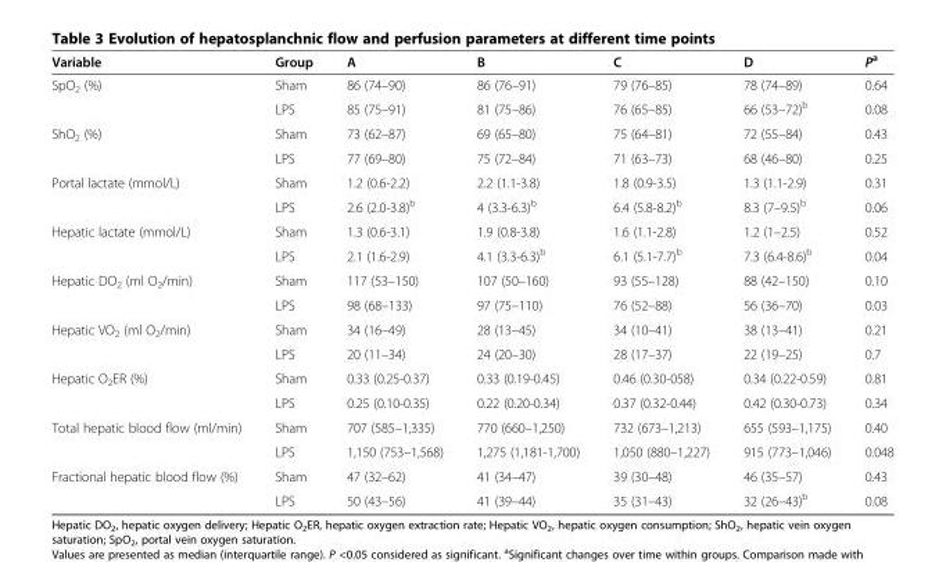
<table><thead><tr><td>Variable</td><td>Group</td><td>A</td><td>B</td><td>C</td><td>D</td><td>P<sup>a</sup></td></tr></thead><tbody><tr><td rowspan="2">SpO<sub>2</sub> (%)</td><td>Sham</td><td>86 (74–90)</td><td>86 (76–91)</td><td>79 (76–85)</td><td>78 (74–89)</td><td>0.64</td></tr><tr><td>LPS</td><td>85 (75–91)</td><td>81 (75–86)</td><td>76 (65–85)</td><td>66 (53–72)<sup>b</sup></td><td>0.08</td></tr><tr><td rowspan="2">ShO<sub>2</sub> (%)</td><td>Sham</td><td>73 (62–87)</td><td>69 (65–80)</td><td>75 (64–81)</td><td>72 (55–84)</td><td>0.43</td></tr><tr><td>LPS</td><td>77 (69–80)</td><td>75 (72–84)</td><td>71 (63–73)</td><td>68 (46–80)</td><td>0.25</td></tr><tr><td rowspan="2">Portal lactate (mmol/L)</td><td>Sham</td><td>1.2 (0.6-2.2)</td><td>2.2 (1.1-3.8)</td><td>1.8 (0.9-3.5)</td><td>1.3 (1.1-2.9)</td><td>0.31</td></tr><tr><td>LPS</td><td>2.6 (2.0-3.8)<sup>b</sup></td><td>4 (3.3-6.3)<sup>b</sup></td><td>6.4 (5.8-8.2)<sup>b</sup></td><td>8.3 (7–9.5)<sup>b</sup></td><td>0.06</td></tr><tr><td rowspan="2">Hepatic lactate (mmol/L)</td><td>Sham</td><td>1.3 (0.6-3.1)</td><td>1.9 (0.8-3.8)</td><td>1.6 (1.1-2.8)</td><td>1.2 (1–2.5)</td><td>0.52</td></tr><tr><td>LPS</td><td>2.1 (1.6-2.9)</td><td>4.1 (3.3-6.3)<sup>b</sup></td><td>6.1 (5.1-7.7)<sup>b</sup></td><td>7.3 (6.4-8.6)<sup>b</sup></td><td>0.04</td></tr><tr><td rowspan="2">Hepatic DO<sub>2</sub> (ml O<sub>2</sub>/min)</td><td>Sham</td><td>117 (53–150)</td><td>107 (50–160)</td><td>93 (55–128)</td><td>88 (42–150)</td><td>0.10</td></tr><tr><td>LPS</td><td>98 (68–133)</td><td>97 (75–110)</td><td>76 (52–88)</td><td>56 (36–70)</td><td>0.03</td></tr><tr><td rowspan="2">Hepatic VO<sub>2</sub> (ml O<sub>2</sub>/min)</td><td>Sham</td><td>34 (16–49)</td><td>28 (13–45)</td><td>34 (10–41)</td><td>38 (13–41)</td><td>0.21</td></tr><tr><td>LPS</td><td>20 (11–34)</td><td>24 (20–30)</td><td>28 (17–37)</td><td>22 (19–25)</td><td>0.7</td></tr><tr><td rowspan="2">Hepatic O<sub>2</sub>ER (%)</td><td>Sham</td><td>0.33 (0.25-0.37)</td><td>0.33 (0.19-0.45)</td><td>0.46 (0.30-058)</td><td>0.34 (0.22-0.59)</td><td>0.81</td></tr><tr><td>LPS</td><td>0.25 (0.10-0.35)</td><td>0.22 (0.20-0.34)</td><td>0.37 (0.32-0.44)</td><td>0.42 (0.30-0.73)</td><td>0.34</td></tr><tr><td rowspan="2">Total hepatic blood flow (ml/min)</td><td>Sham</td><td>707 (585–1,335)</td><td>770 (660–1,250)</td><td>732 (673–1,213)</td><td>655 (593–1,175)</td><td>0.40</td></tr><tr><td>LPS</td><td>1,150 (753–1,568)</td><td>1,275 (1,181-1,700)</td><td>1,050 (880–1,227)</td><td>915 (773–1,046)</td><td>0.048</td></tr><tr><td rowspan="2">Fractional hepatic blood flow (%)</td><td>Sham</td><td>47 (32–62)</td><td>41 (34–47)</td><td>39 (30–48)</td><td>46 (35–57)</td><td>0.43</td></tr><tr><td>LPS</td><td>50 (43–56)</td><td>41 (39–44)</td><td>35 (31–43)</td><td>32 (26–43)<sup>b</sup></td><td>0.08</td></tr></tbody></table>